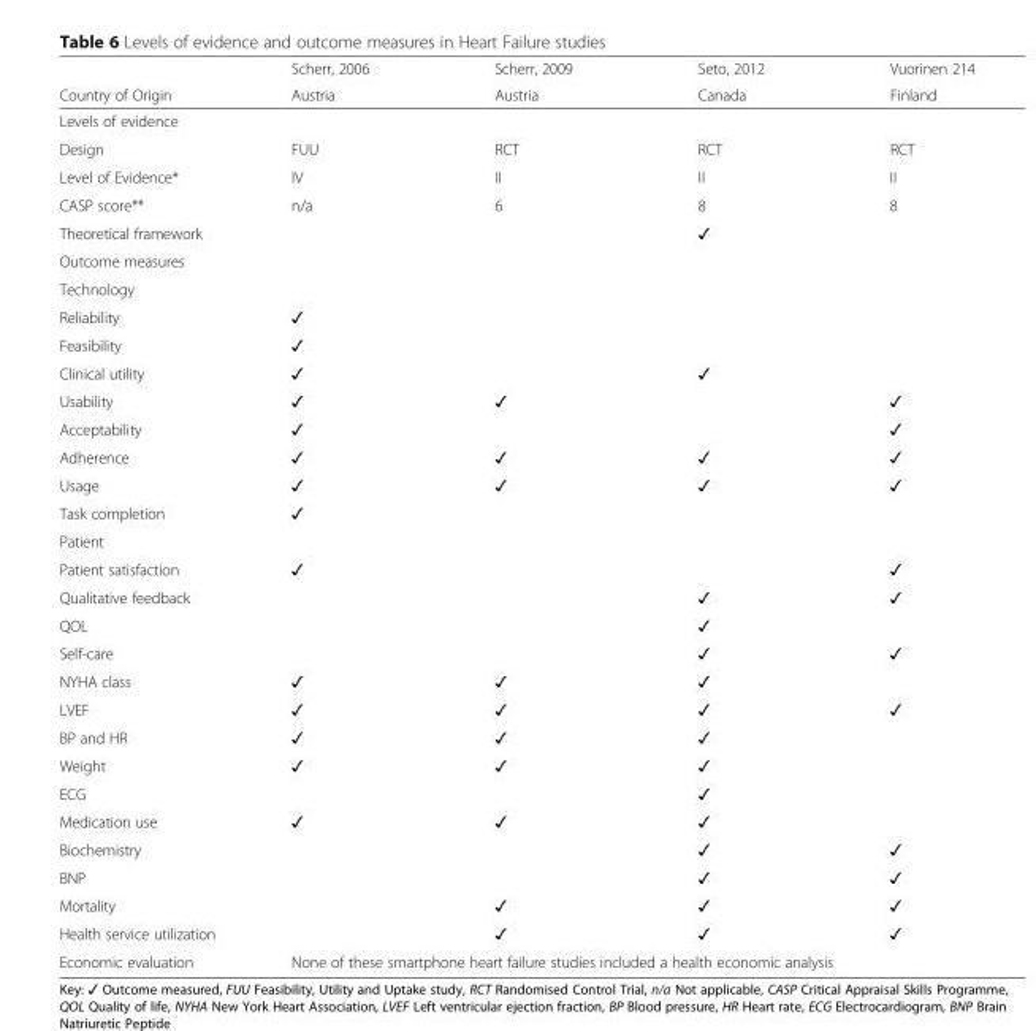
<table><thead><tr><td rowspan="2">Country of Origin</td><td rowspan="2">Scherr, 2006 Austria</td><td rowspan="2">Scherr, 2009 Austria</td><td rowspan="2">Seto, 2012 Canada</td><td rowspan="2">Vuorinen 214 Finland</td></tr><tr></tr></thead><tbody><tr><td colspan="5">Levels of evidence</td></tr><tr><td>Design</td><td>FUU</td><td>RCT</td><td>RCT</td><td>RCT</td></tr><tr><td>Level of Evidence*</td><td>IV</td><td>II</td><td>II</td><td>II</td></tr><tr><td>CASP score**</td><td>n/a</td><td>6</td><td>8</td><td>8</td></tr><tr><td>Theoretical framework</td><td></td><td></td><td>✓</td><td></td></tr><tr><td colspan="5">Outcome measures</td></tr><tr><td colspan="5">Technology</td></tr><tr><td>Reliability</td><td>✓</td><td></td><td></td><td></td></tr><tr><td>Feasibility</td><td>✓</td><td></td><td></td><td></td></tr><tr><td>Clinical utility</td><td>✓</td><td></td><td>✓</td><td></td></tr><tr><td>Usability</td><td>✓</td><td>✓</td><td></td><td>✓</td></tr><tr><td>Acceptability</td><td>✓</td><td></td><td></td><td>✓</td></tr><tr><td>Adherence</td><td>✓</td><td>✓</td><td>✓</td><td>✓</td></tr><tr><td>Usage</td><td>✓</td><td>✓</td><td>✓</td><td>✓</td></tr><tr><td>Task completion</td><td>✓</td><td></td><td></td><td></td></tr><tr><td colspan="5">Patient</td></tr><tr><td>Patient satisfaction</td><td>✓</td><td></td><td></td><td>✓</td></tr><tr><td>Qualitative feedback</td><td></td><td></td><td>✓</td><td>✓</td></tr><tr><td>QOL</td><td></td><td></td><td>✓</td><td></td></tr><tr><td>Self-care</td><td></td><td></td><td>✓</td><td>✓</td></tr><tr><td>NYHA class</td><td>✓</td><td>✓</td><td>✓</td><td></td></tr><tr><td>LVEF</td><td>✓</td><td>✓</td><td>✓</td><td>✓</td></tr><tr><td>BP and HR</td><td>✓</td><td>✓</td><td>✓</td><td></td></tr><tr><td>Weight</td><td>✓</td><td>✓</td><td>✓</td><td></td></tr><tr><td>ECG</td><td></td><td></td><td>✓</td><td></td></tr><tr><td>Medication use</td><td>✓</td><td>✓</td><td>✓</td><td></td></tr><tr><td>Biochemistry</td><td></td><td></td><td>✓</td><td>✓</td></tr><tr><td>BNP</td><td></td><td></td><td>✓</td><td>✓</td></tr><tr><td>Mortality</td><td></td><td>✓</td><td>✓</td><td>✓</td></tr><tr><td>Health service utilization</td><td></td><td>✓</td><td>✓</td><td>✓</td></tr><tr><td>Economic evaluation</td><td colspan="4">None of these smartphone heart failure studies included a health economic analysis</td></tr></tbody></table>